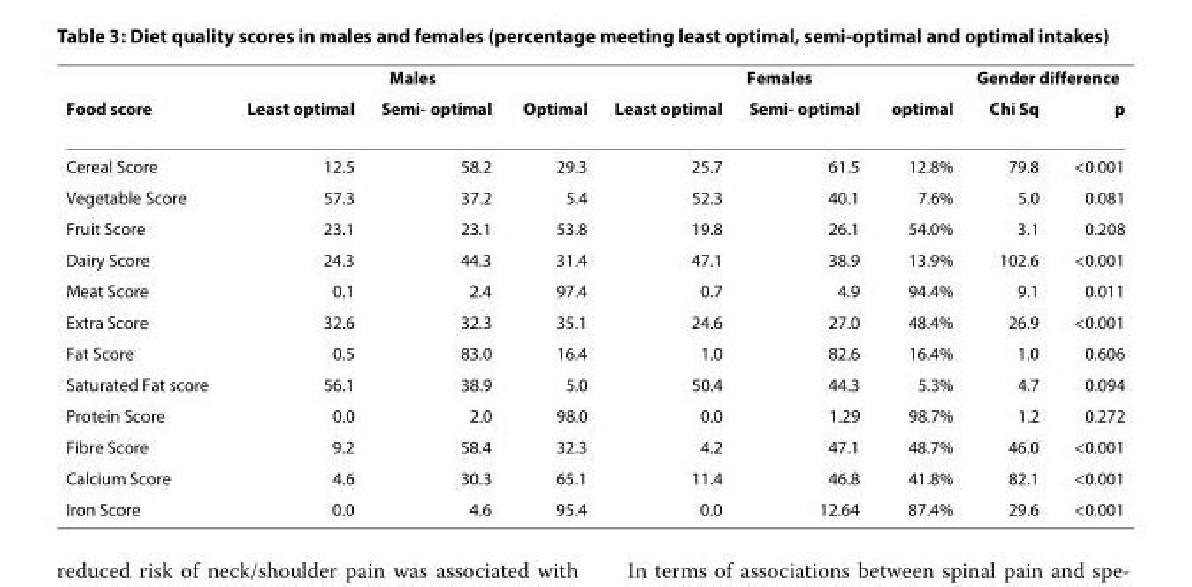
<table><thead><tr><td rowspan="2">Food score</td><td colspan="3">Males</td><td colspan="3">Females</td><td colspan="2">Gender difference</td></tr><tr><td>Least optimal</td><td>Semi- optimal</td><td>Optimal</td><td>Least optimal</td><td>Semi- optimal</td><td>optimal</td><td>Chi Sq</td><td>p</td></tr></thead><tbody><tr><td>Cereal Score</td><td>12.5</td><td>58.2</td><td>29.3</td><td>25.7</td><td>61.5</td><td>12.8%</td><td>79.8</td><td>&lt;0.001</td></tr><tr><td>Vegetable Score</td><td>57.3</td><td>37.2</td><td>5.4</td><td>52.3</td><td>40.1</td><td>7.6%</td><td>5.0</td><td>0.081</td></tr><tr><td>Fruit Score</td><td>23.1</td><td>23.1</td><td>53.8</td><td>19.8</td><td>26.1</td><td>54.0%</td><td>3.1</td><td>0.208</td></tr><tr><td>Dairy Score</td><td>24.3</td><td>44.3</td><td>31.4</td><td>47.1</td><td>38.9</td><td>13.9%</td><td>102.6</td><td>&lt;0.001</td></tr><tr><td>Meat Score</td><td>0.1</td><td>2.4</td><td>97.4</td><td>0.7</td><td>4.9</td><td>94.4%</td><td>9.1</td><td>0.011</td></tr><tr><td>Extra Score</td><td>32.6</td><td>32.3</td><td>35.1</td><td>24.6</td><td>27.0</td><td>48.4%</td><td>26.9</td><td>&lt;0.001</td></tr><tr><td>Fat Score</td><td>0.5</td><td>83.0</td><td>16.4</td><td>1.0</td><td>82.6</td><td>16.4%</td><td>1.0</td><td>0.606</td></tr><tr><td>Saturated Fat score</td><td>56.1</td><td>38.9</td><td>5.0</td><td>50.4</td><td>44.3</td><td>5.3%</td><td>4.7</td><td>0.094</td></tr><tr><td>Protein Score</td><td>0.0</td><td>2.0</td><td>98.0</td><td>0.0</td><td>1.29</td><td>98.7%</td><td>1.2</td><td>0.272</td></tr><tr><td>Fibre Score</td><td>9.2</td><td>58.4</td><td>32.3</td><td>4.2</td><td>47.1</td><td>48.7%</td><td>46.0</td><td>&lt;0.001</td></tr><tr><td>Calcium Score</td><td>4.6</td><td>30.3</td><td>65.1</td><td>11.4</td><td>46.8</td><td>41.8%</td><td>82.1</td><td>&lt;0.001</td></tr><tr><td>Iron Score</td><td>0.0</td><td>4.6</td><td>95.4</td><td>0.0</td><td>12.64</td><td>87.4%</td><td>29.6</td><td>&lt;0.001</td></tr></tbody></table>